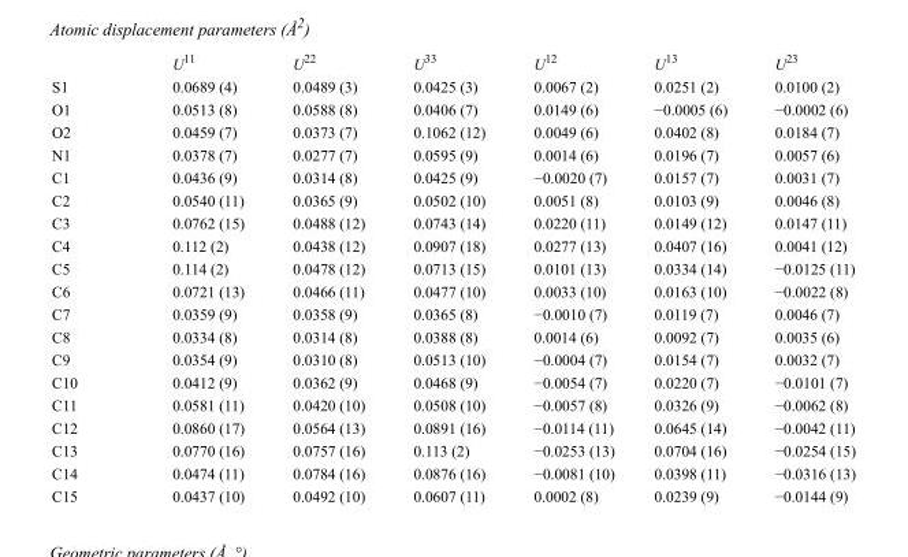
<table><thead><tr><td></td><td>U<sup>11</sup></td><td>U<sup>22</sup></td><td>U<sup>33</sup></td><td>U<sup>12</sup></td><td>U<sup>13</sup></td><td>U<sup>23</sup></td></tr></thead><tbody><tr><td>S1</td><td>0.0689 (4)</td><td>0.0489 (3)</td><td>0.0425 (3)</td><td>0.0067 (2)</td><td>0.0251 (2)</td><td>0.0100 (2)</td></tr><tr><td>O1</td><td>0.0513 (8)</td><td>0.0588 (8)</td><td>0.0406 (7)</td><td>0.0149 (6)</td><td>−0.0005 (6)</td><td>−0.0002 (6)</td></tr><tr><td>O2</td><td>0.0459 (7)</td><td>0.0373 (7)</td><td>0.1062 (12)</td><td>0.0049 (6)</td><td>0.0402 (8)</td><td>0.0184 (7)</td></tr><tr><td>N1</td><td>0.0378 (7)</td><td>0.0277 (7)</td><td>0.0595 (9)</td><td>0.0014 (6)</td><td>0.0196 (7)</td><td>0.0057 (6)</td></tr><tr><td>C1</td><td>0.0436 (9)</td><td>0.0314 (8)</td><td>0.0425 (9)</td><td>−0.0020 (7)</td><td>0.0157 (7)</td><td>0.0031 (7)</td></tr><tr><td>C2</td><td>0.0540 (11)</td><td>0.0365 (9)</td><td>0.0502 (10)</td><td>0.0051 (8)</td><td>0.0103 (9)</td><td>0.0046 (8)</td></tr><tr><td>C3</td><td>0.0762 (15)</td><td>0.0488 (12)</td><td>0.0743 (14)</td><td>0.0220 (11)</td><td>0.0149 (12)</td><td>0.0147 (11)</td></tr><tr><td>C4</td><td>0.112 (2)</td><td>0.0438 (12)</td><td>0.0907 (18)</td><td>0.0277 (13)</td><td>0.0407 (16)</td><td>0.0041 (12)</td></tr><tr><td>C5</td><td>0.114 (2)</td><td>0.0478 (12)</td><td>0.0713 (15)</td><td>0.0101 (13)</td><td>0.0334 (14)</td><td>−0.0125 (11)</td></tr><tr><td>C6</td><td>0.0721 (13)</td><td>0.0466 (11)</td><td>0.0477 (10)</td><td>0.0033 (10)</td><td>0.0163 (10)</td><td>−0.0022 (8)</td></tr><tr><td>C7</td><td>0.0359 (9)</td><td>0.0358 (9)</td><td>0.0365 (8)</td><td>−0.0010 (7)</td><td>0.0119 (7)</td><td>0.0046 (7)</td></tr><tr><td>C8</td><td>0.0334 (8)</td><td>0.0314 (8)</td><td>0.0388 (8)</td><td>0.0014 (6)</td><td>0.0092 (7)</td><td>0.0035 (6)</td></tr><tr><td>C9</td><td>0.0354 (9)</td><td>0.0310 (8)</td><td>0.0513 (10)</td><td>−0.0004 (7)</td><td>0.0154 (7)</td><td>0.0032 (7)</td></tr><tr><td>C10</td><td>0.0412 (9)</td><td>0.0362 (9)</td><td>0.0468 (9)</td><td>−0.0054 (7)</td><td>0.0220 (7)</td><td>−0.0101 (7)</td></tr><tr><td>C11</td><td>0.0581 (11)</td><td>0.0420 (10)</td><td>0.0508 (10)</td><td>−0.0057 (8)</td><td>0.0326 (9)</td><td>−0.0062 (8)</td></tr><tr><td>C12</td><td>0.0860 (17)</td><td>0.0564 (13)</td><td>0.0891 (16)</td><td>−0.0114 (11)</td><td>0.0645 (14)</td><td>−0.0042 (11)</td></tr><tr><td>C13</td><td>0.0770 (16)</td><td>0.0757 (16)</td><td>0.113 (2)</td><td>−0.0253 (13)</td><td>0.0704 (16)</td><td>−0.0254 (15)</td></tr><tr><td>C14</td><td>0.0474 (11)</td><td>0.0784 (16)</td><td>0.0876 (16)</td><td>−0.0081 (10)</td><td>0.0398 (11)</td><td>−0.0316 (13)</td></tr><tr><td>C15</td><td>0.0437 (10)</td><td>0.0492 (10)</td><td>0.0607 (11)</td><td>0.0002 (8)</td><td>0.0239 (9)</td><td>−0.0144 (9)</td></tr></tbody></table>